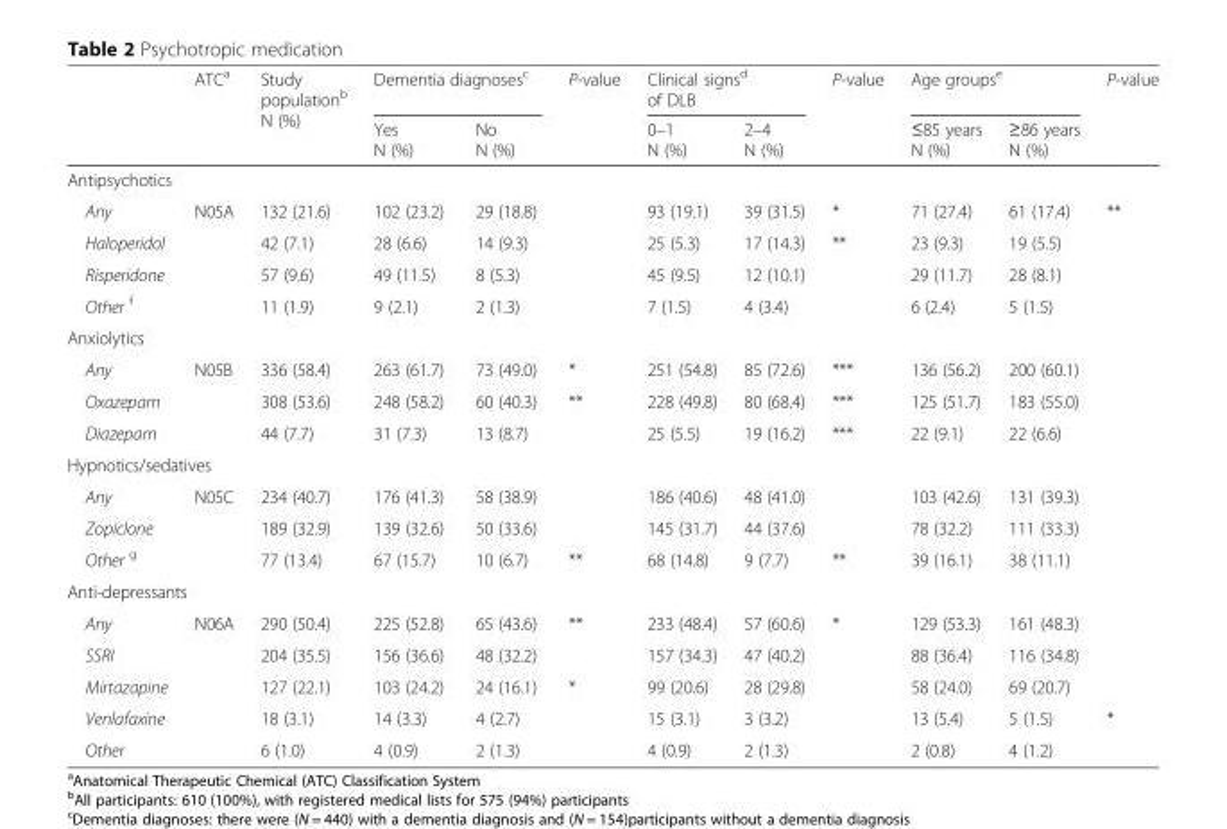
<table><thead><tr><td rowspan="2"></td><td rowspan="2">ATC<sup>a</sup></td><td rowspan="2">Study population<sup>b</sup> N (%)</td><td colspan="2">Dementia diagnoses<sup>c</sup></td><td rowspan="2">P-value</td><td colspan="2">Clinical signs<sup>d</sup> of DLB</td><td rowspan="2">P-value</td><td colspan="2">Age groups<sup>e</sup></td><td rowspan="2">P-value</td></tr><tr><td>Yes N (%)</td><td>No N (%)</td><td>0–1 N (%)</td><td>2–4 N (%)</td><td>≤85 years N (%)</td><td>≥86 years N (%)</td></tr></thead><tbody><tr><td colspan="12">Antipsychotics</td></tr><tr><td>Any</td><td>N05A</td><td>132 (21.6)</td><td>102 (23.2)</td><td>29 (18.8)</td><td></td><td>93 (19.1)</td><td>39 (31.5)</td><td>*</td><td>71 (27.4)</td><td>61 (17.4)</td><td>**</td></tr><tr><td>Haloperidol</td><td></td><td>42 (7.1)</td><td>28 (6.6)</td><td>14 (9.3)</td><td></td><td>25 (5.3)</td><td>17 (14.3)</td><td>**</td><td>23 (9.3)</td><td>19 (5.5)</td><td></td></tr><tr><td>Risperidone</td><td></td><td>57 (9.6)</td><td>49 (11.5)</td><td>8 (5.3)</td><td></td><td>45 (9.5)</td><td>12 (10.1)</td><td></td><td>29 (11.7)</td><td>28 (8.1)</td><td></td></tr><tr><td>Other <sup>f</sup></td><td></td><td>11 (1.9)</td><td>9 (2.1)</td><td>2 (1.3)</td><td></td><td>7 (1.5)</td><td>4 (3.4)</td><td></td><td>6 (2.4)</td><td>5 (1.5)</td><td></td></tr><tr><td colspan="12">Anxiolytics</td></tr><tr><td>Any</td><td>N05B</td><td>336 (58.4)</td><td>263 (61.7)</td><td>73 (49.0)</td><td>*</td><td>251 (54.8)</td><td>85 (72.6)</td><td>***</td><td>136 (56.2)</td><td>200 (60.1)</td><td></td></tr><tr><td>Oxazepam</td><td></td><td>308 (53.6)</td><td>248 (58.2)</td><td>60 (40.3)</td><td>**</td><td>228 (49.8)</td><td>80 (68.4)</td><td>***</td><td>125 (51.7)</td><td>183 (55.0)</td><td></td></tr><tr><td>Diazepam</td><td></td><td>44 (7.7)</td><td>31 (7.3)</td><td>13 (8.7)</td><td></td><td>25 (5.5)</td><td>19 (16.2)</td><td>***</td><td>22 (9.1)</td><td>22 (6.6)</td><td></td></tr><tr><td colspan="12">Hypnotics/sedatives</td></tr><tr><td>Any</td><td>N05C</td><td>234 (40.7)</td><td>176 (41.3)</td><td>58 (38.9)</td><td></td><td>186 (40.6)</td><td>48 (41.0)</td><td></td><td>103 (42.6)</td><td>131 (39.3)</td><td></td></tr><tr><td>Zopiclone</td><td></td><td>189 (32.9)</td><td>139 (32.6)</td><td>50 (33.6)</td><td></td><td>145 (31.7)</td><td>44 (37.6)</td><td></td><td>78 (32.2)</td><td>111 (33.3)</td><td></td></tr><tr><td>Other <sup>g</sup></td><td></td><td>77 (13.4)</td><td>67 (15.7)</td><td>10 (6.7)</td><td>**</td><td>68 (14.8)</td><td>9 (7.7)</td><td>**</td><td>39 (16.1)</td><td>38 (11.1)</td><td></td></tr><tr><td colspan="12">Anti-depressants</td></tr><tr><td>Any</td><td>N06A</td><td>290 (50.4)</td><td>225 (52.8)</td><td>65 (43.6)</td><td>**</td><td>233 (48.4)</td><td>57 (60.6)</td><td>*</td><td>129 (53.3)</td><td>161 (48.3)</td><td></td></tr><tr><td>SSRI</td><td></td><td>204 (35.5)</td><td>156 (36.6)</td><td>48 (32.2)</td><td></td><td>157 (34.3)</td><td>47 (40.2)</td><td></td><td>88 (36.4)</td><td>116 (34.8)</td><td></td></tr><tr><td>Mirtazapine</td><td></td><td>127 (22.1)</td><td>103 (24.2)</td><td>24 (16.1)</td><td>*</td><td>99 (20.6)</td><td>28 (29.8)</td><td></td><td>58 (24.0)</td><td>69 (20.7)</td><td></td></tr><tr><td>Venlafaxine</td><td></td><td>18 (3.1)</td><td>14 (3.3)</td><td>4 (2.7)</td><td></td><td>15 (3.1)</td><td>3 (3.2)</td><td></td><td>13 (5.4)</td><td>5 (1.5)</td><td>*</td></tr><tr><td>Other</td><td></td><td>6 (1.0)</td><td>4 (0.9)</td><td>2 (1.3)</td><td></td><td>4 (0.9)</td><td>2 (1.3)</td><td></td><td>2 (0.8)</td><td>4 (1.2)</td><td></td></tr></tbody></table>